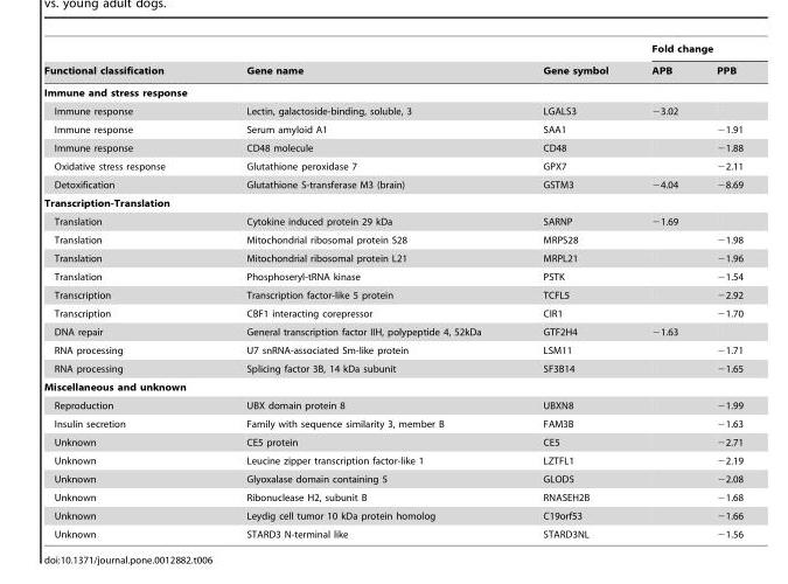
<table><thead><tr><td rowspan="2">Functional classification</td><td rowspan="2">Gene name</td><td rowspan="2">Gene symbol</td><td colspan="2">Fold change</td></tr><tr><td>APB</td><td>PPB</td></tr></thead><tbody><tr><td colspan="5">Immune and stress response</td></tr><tr><td>Immune response</td><td>Lectin, galactoside-binding, soluble, 3</td><td>LGALS3</td><td>−3.02</td><td></td></tr><tr><td>Immune response</td><td>Serum amyloid A1</td><td>SAA1</td><td></td><td>−1.91</td></tr><tr><td>Immune response</td><td>CD48 molecule</td><td>CD48</td><td></td><td>−1.88</td></tr><tr><td>Oxidative stress response</td><td>Glutathione peroxidase 7</td><td>GPX7</td><td></td><td>−2.11</td></tr><tr><td>Detoxification</td><td>Glutathione S-transferase M3 (brain)</td><td>GSTM3</td><td>−4.04</td><td>−8.69</td></tr><tr><td colspan="5">Transcription-Translation</td></tr><tr><td>Translation</td><td>Cytokine induced protein 29 kDa</td><td>SARNP</td><td>−1.69</td><td></td></tr><tr><td>Translation</td><td>Mitochondrial ribosomal protein S28</td><td>MRPS28</td><td></td><td>−1.98</td></tr><tr><td>Translation</td><td>Mitochondrial ribosomal protein L21</td><td>MRPL21</td><td></td><td>−1.96</td></tr><tr><td>Translation</td><td>Phosphoseryl-tRNA kinase</td><td>PSTK</td><td></td><td>−1.54</td></tr><tr><td>Transcription</td><td>Transcription factor-like 5 protein</td><td>TCFL5</td><td></td><td>−2.92</td></tr><tr><td>Transcription</td><td>CBF1 interacting corepressor</td><td>CIR1</td><td></td><td>−1.70</td></tr><tr><td>DNA repair</td><td>General transcription factor IIH, polypeptide 4, 52kDa</td><td>GTF2H4</td><td>−1.63</td><td></td></tr><tr><td>RNA processing</td><td>U7 snRNA-associated Sm-like protein</td><td>LSM11</td><td></td><td>−1.71</td></tr><tr><td>RNA processing</td><td>Splicing factor 3B, 14 kDa subunit</td><td>SF3B14</td><td></td><td>−1.65</td></tr><tr><td colspan="5">Miscellaneous and unknown</td></tr><tr><td>Reproduction</td><td>UBX domain protein 8</td><td>UBXN8</td><td></td><td>−1.99</td></tr><tr><td>Insulin secretion</td><td>Family with sequence similarity 3, member B</td><td>FAM3B</td><td></td><td>−1.63</td></tr><tr><td>Unknown</td><td>CE5 protein</td><td>CE5</td><td></td><td>−2.71</td></tr><tr><td>Unknown</td><td>Leucine zipper transcription factor-like 1</td><td>LZTFL1</td><td></td><td>−2.19</td></tr><tr><td>Unknown</td><td>Glyoxalase domain containing 5</td><td>GLOD5</td><td></td><td>−2.08</td></tr><tr><td>Unknown</td><td>Ribonuclease H2, subunit B</td><td>RNASEH2B</td><td></td><td>−1.68</td></tr><tr><td>Unknown</td><td>Leydig cell tumor 10 kDa protein homolog</td><td>C19orf53</td><td></td><td>−1.66</td></tr><tr><td>Unknown</td><td>STARD3 N-terminal like</td><td>STARD3NL</td><td></td><td>−1.56</td></tr></tbody></table>